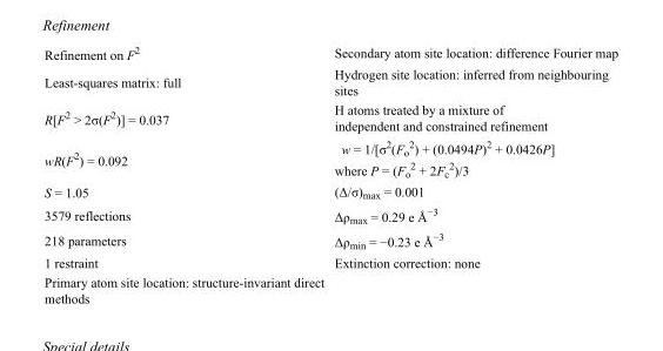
<table><tbody><tr><td>Refinement on F<sup>2</sup></td><td>Secondary atom site location: difference Fourier map</td></tr><tr><td>Least-squares matrix: full</td><td>Hydrogen site location: inferred from neighbouring sites</td></tr><tr><td>R[F<sup>2</sup> &gt; 2σ(F<sup>2</sup>)] = 0.037</td><td>H atoms treated by a mixture of independent and constrained refinement</td></tr><tr><td>wR(F<sup>2</sup>) = 0.092</td><td>w = 1/[σ<sup>2</sup>(F<sub>o</sub> <sup>2</sup>) + (0.0494P)<sup>2</sup> + 0.0426P] where P = (F<sub>o</sub> <sup>2</sup> + 2F<sub>c</sub> <sup>2</sup>)/3</td></tr><tr><td>S = 1.05</td><td>(Δ/σ)<sub>max</sub> = 0.001</td></tr><tr><td>3579 reflections</td><td>Δρ<sub>max</sub> = 0.29 e Å<sup>−3</sup></td></tr><tr><td>218 parameters</td><td>Δρ<sub>min</sub> = −0.23 e Å<sup>−3</sup></td></tr><tr><td>1 restraint</td><td>Extinction correction: none</td></tr><tr><td>Primary atom site location: structure-invariant direct methods</td><td></td></tr></tbody></table>